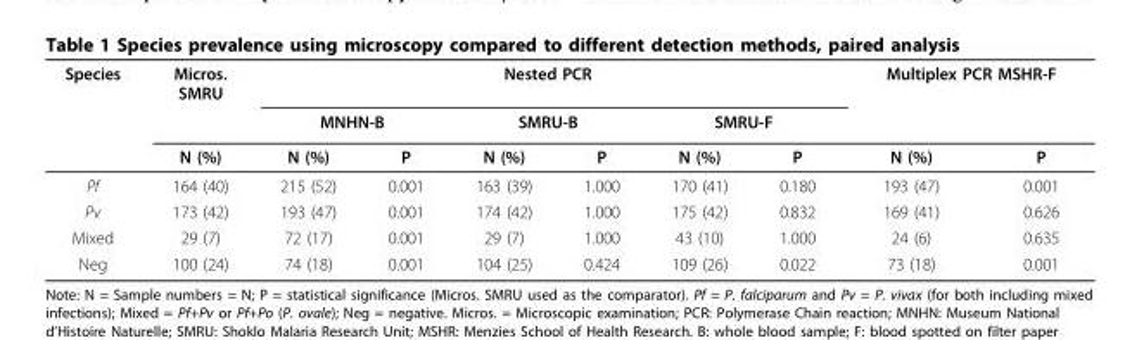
<table><thead><tr><td rowspan="3">Species</td><td rowspan="3">Micros. SMRU N (%)</td><td colspan="6">Nested PCR</td><td colspan="2">Multiplex PCR MSHR-F</td></tr><tr><td colspan="2">MNHN-B</td><td colspan="2">SMRU-B</td><td colspan="2">SMRU-F</td><td rowspan="2">N (%)</td><td rowspan="2">P</td></tr><tr><td>N (%)</td><td>P</td><td>N (%)</td><td>P</td><td>N (%)</td><td>P</td></tr></thead><tbody><tr><td>Pf</td><td>164 (40)</td><td>215 (52)</td><td>0.001</td><td>163 (39)</td><td>1.000</td><td>170 (41)</td><td>0.180</td><td>193 (47)</td><td>0.001</td></tr><tr><td>Pv</td><td>173 (42)</td><td>193 (47)</td><td>0.001</td><td>174 (42)</td><td>1.000</td><td>175 (42)</td><td>0.832</td><td>169 (41)</td><td>0.626</td></tr><tr><td>Mixed</td><td>29 (7)</td><td>72 (17)</td><td>0.001</td><td>29 (7)</td><td>1.000</td><td>43 (10)</td><td>1.000</td><td>24 (6)</td><td>0.635</td></tr><tr><td>Neg</td><td>100 (24)</td><td>74 (18)</td><td>0.001</td><td>104 (25)</td><td>0.424</td><td>109 (26)</td><td>0.022</td><td>73 (18)</td><td>0.001</td></tr></tbody></table>